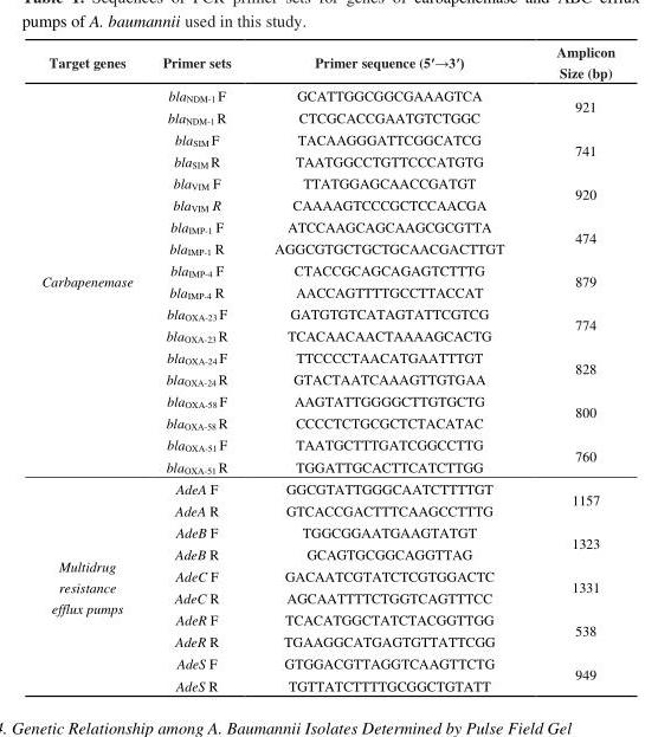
<table><thead><tr><td>Target genes</td><td>Primer sets</td><td>Primer sequence (5′→3′)</td><td>Amplicon Size (bp)</td></tr></thead><tbody><tr><td rowspan="18">Carbapenemase</td><td>bla<sub>NDM-1</sub> F</td><td>GCATTGGCGGCGAAAGTCA</td><td rowspan="2">921</td></tr><tr><td>bla<sub>NDM-1</sub> R</td><td>CTCGCACCGAATGTCTGGC</td></tr><tr><td>bla<sub>SIM</sub> F</td><td>TACAAGGGATTCGGCATCG</td><td rowspan="2">741</td></tr><tr><td>bla<sub>SIM</sub> R</td><td>TAATGGCCTGTTCCCATGTG</td></tr><tr><td>bla<sub>VIM</sub> F</td><td>TTATGGAGCAACCGATGT</td><td rowspan="2">920</td></tr><tr><td>bla<sub>VIM</sub> R</td><td>CAAAAGTCCCGCTCCAACGA</td></tr><tr><td>bla<sub>IMP-1</sub> F</td><td>ATCCAAGCAGCAAGCGCGTTA</td><td rowspan="2">474</td></tr><tr><td>bla<sub>IMP-1</sub> R</td><td>AGGCGTGCTGCTGCAACGACTTGT</td></tr><tr><td>bla<sub>IMP-4</sub> F</td><td>CTACCGCAGCAGAGTCTTTG</td><td rowspan="2">879</td></tr><tr><td>bla<sub>IMP-4</sub> R</td><td>AACCAGTTTTGCCTTACCAT</td></tr><tr><td>bla<sub>OXA-23</sub> F</td><td>GATGTGTCATAGTATTCGTCG</td><td rowspan="2">774</td></tr><tr><td>bla<sub>OXA-23</sub> R</td><td>TCACAACAACTAAAAGCACTG</td></tr><tr><td>bla<sub>OXA-24</sub> F</td><td>TTCCCCTAACATGAATTTGT</td><td rowspan="2">828</td></tr><tr><td>bla<sub>OXA-24</sub> R</td><td>GTACTAATCAAAGTTGTGAA</td></tr><tr><td>bla<sub>OXA-58</sub> F</td><td>AAGTATTGGGGCTTGTGCTG</td><td rowspan="2">800</td></tr><tr><td>bla<sub>OXA-58</sub> R</td><td>CCCCTCTGCGCTCTACATAC</td></tr><tr><td>bla<sub>OXA-51</sub> F</td><td>TAATGCTTTGATCGGCCTTG</td><td rowspan="2">760</td></tr><tr><td>bla<sub>OXA-51</sub> R</td><td>TGGATTGCACTTCATCTTGG</td></tr><tr><td rowspan="10">Multidrug resistance efflux pumps</td><td>AdeA F</td><td>GGCGTATTGGGCAATCTTTTGT</td><td rowspan="2">1157</td></tr><tr><td>AdeA R</td><td>GTCACCGACTTTCAAGCCTTTG</td></tr><tr><td>AdeB F</td><td>TGGCGGAATGAAGTATGT</td><td rowspan="2">1323</td></tr><tr><td>AdeB R</td><td>GCAGTGCGGCAGGTTAG</td></tr><tr><td>AdeC F</td><td>GACAATCGTATCTCGTGGACTC</td><td rowspan="2">1331</td></tr><tr><td>AdeC R</td><td>AGCAATTTTCTGGTCAGTTTCC</td></tr><tr><td>AdeR F</td><td>TCACATGGCTATCTACGGTTGG</td><td rowspan="2">538</td></tr><tr><td>AdeR R</td><td>TGAAGGCATGAGTGTTATTCGG</td></tr><tr><td>AdeS F</td><td>GTGGACGTTAGGTCAAGTTCTG</td><td rowspan="2">949</td></tr><tr><td>AdeS R</td><td>TGTTATCTTTTGCGGCTGTATT</td></tr></tbody></table>